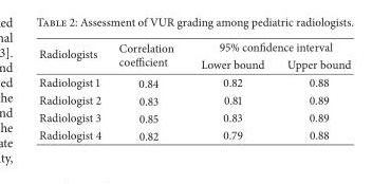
<table><thead><tr><td rowspan="2">Radiologists</td><td rowspan="2">Correlation coefficient</td><td colspan="2">95% confidence interval</td></tr><tr><td>Lower bound</td><td>Upper bound</td></tr></thead><tbody><tr><td>Radiologist 1</td><td>0.84</td><td>0.82</td><td>0.88</td></tr><tr><td>Radiologist 2</td><td>0.83</td><td>0.81</td><td>0.89</td></tr><tr><td>Radiologist 3</td><td>0.85</td><td>0.83</td><td>0.89</td></tr><tr><td>Radiologist 4</td><td>0.82</td><td>0.79</td><td>0.88</td></tr></tbody></table>